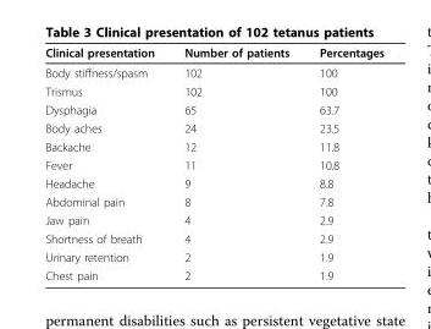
<table><thead><tr><td>Clinical presentation</td><td>Number of patients</td><td>Percentages</td></tr></thead><tbody><tr><td>Body stiffness/spasm</td><td>102</td><td>100</td></tr><tr><td>Trismus</td><td>102</td><td>100</td></tr><tr><td>Dysphagia</td><td>65</td><td>63.7</td></tr><tr><td>Body aches</td><td>24</td><td>23.5</td></tr><tr><td>Backache</td><td>12</td><td>11.8</td></tr><tr><td>Fever</td><td>11</td><td>10.8</td></tr><tr><td>Headache</td><td>9</td><td>8.8</td></tr><tr><td>Abdominal pain</td><td>8</td><td>7.8</td></tr><tr><td>Jaw pain</td><td>4</td><td>2.9</td></tr><tr><td>Shortness of breath</td><td>4</td><td>2.9</td></tr><tr><td>Urinary retention</td><td>2</td><td>1.9</td></tr><tr><td>Chest pain</td><td>2</td><td>1.9</td></tr></tbody></table>